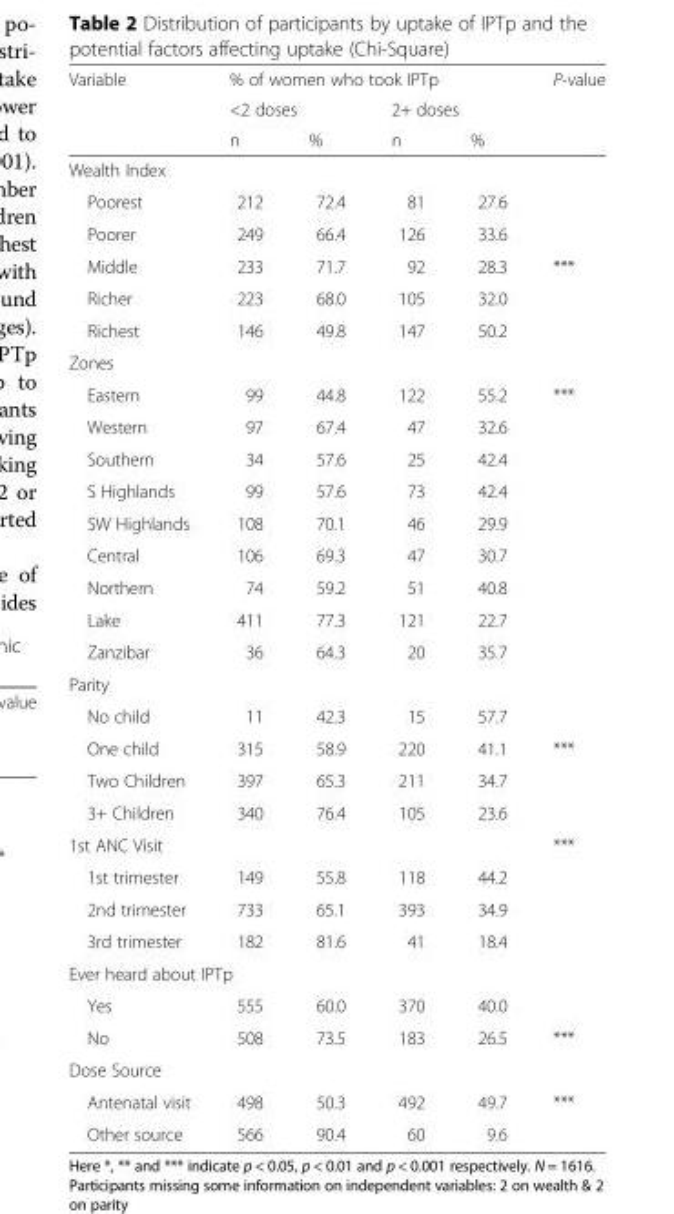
<table><thead><tr><td rowspan="3">Variable</td><td colspan="4">% of women who took IPTp</td><td rowspan="3">P-value</td></tr><tr><td colspan="2">&lt;2 doses</td><td colspan="2">2+ doses</td></tr><tr><td>n</td><td>%</td><td>n</td><td>%</td></tr></thead><tbody><tr><td colspan="6">Wealth Index</td></tr><tr><td>Poorest</td><td>212</td><td>72.4</td><td>81</td><td>27.6</td><td></td></tr><tr><td>Poorer</td><td>249</td><td>66.4</td><td>126</td><td>33.6</td><td></td></tr><tr><td>Middle</td><td>233</td><td>71.7</td><td>92</td><td>28.3</td><td>***</td></tr><tr><td>Richer</td><td>223</td><td>68.0</td><td>105</td><td>32.0</td><td></td></tr><tr><td>Richest</td><td>146</td><td>49.8</td><td>147</td><td>50.2</td><td></td></tr><tr><td colspan="6">Zones</td></tr><tr><td>Eastern</td><td>99</td><td>44.8</td><td>122</td><td>55.2</td><td>***</td></tr><tr><td>Western</td><td>97</td><td>67.4</td><td>47</td><td>32.6</td><td></td></tr><tr><td>Southern</td><td>34</td><td>57.6</td><td>25</td><td>42.4</td><td></td></tr><tr><td>S Highlands</td><td>99</td><td>57.6</td><td>73</td><td>42.4</td><td></td></tr><tr><td>SW Highlands</td><td>108</td><td>70.1</td><td>46</td><td>29.9</td><td></td></tr><tr><td>Central</td><td>106</td><td>69.3</td><td>47</td><td>30.7</td><td></td></tr><tr><td>Northern</td><td>74</td><td>59.2</td><td>51</td><td>40.8</td><td></td></tr><tr><td>Lake</td><td>411</td><td>77.3</td><td>121</td><td>22.7</td><td></td></tr><tr><td>Zanzibar</td><td>36</td><td>64.3</td><td>20</td><td>35.7</td><td></td></tr><tr><td colspan="6">Parity</td></tr><tr><td>No child</td><td>11</td><td>42.3</td><td>15</td><td>57.7</td><td></td></tr><tr><td>One child</td><td>315</td><td>58.9</td><td>220</td><td>41.1</td><td>***</td></tr><tr><td>Two Children</td><td>397</td><td>65.3</td><td>211</td><td>34.7</td><td></td></tr><tr><td>3+ Children</td><td>340</td><td>76.4</td><td>105</td><td>23.6</td><td></td></tr><tr><td colspan="5">1st ANC Visit</td><td>***</td></tr><tr><td>1st trimester</td><td>149</td><td>55.8</td><td>118</td><td>44.2</td><td></td></tr><tr><td>2nd trimester</td><td>733</td><td>65.1</td><td>393</td><td>34.9</td><td></td></tr><tr><td>3rd trimester</td><td>182</td><td>81.6</td><td>41</td><td>18.4</td><td></td></tr><tr><td colspan="6">Ever heard about IPTp</td></tr><tr><td>Yes</td><td>555</td><td>60.0</td><td>370</td><td>40.0</td><td></td></tr><tr><td>No</td><td>508</td><td>73.5</td><td>183</td><td>26.5</td><td>***</td></tr><tr><td colspan="6">Dose Source</td></tr><tr><td>Antenatal visit</td><td>498</td><td>50.3</td><td>492</td><td>49.7</td><td>***</td></tr><tr><td>Other source</td><td>566</td><td>90.4</td><td>60</td><td>9.6</td><td></td></tr></tbody></table>